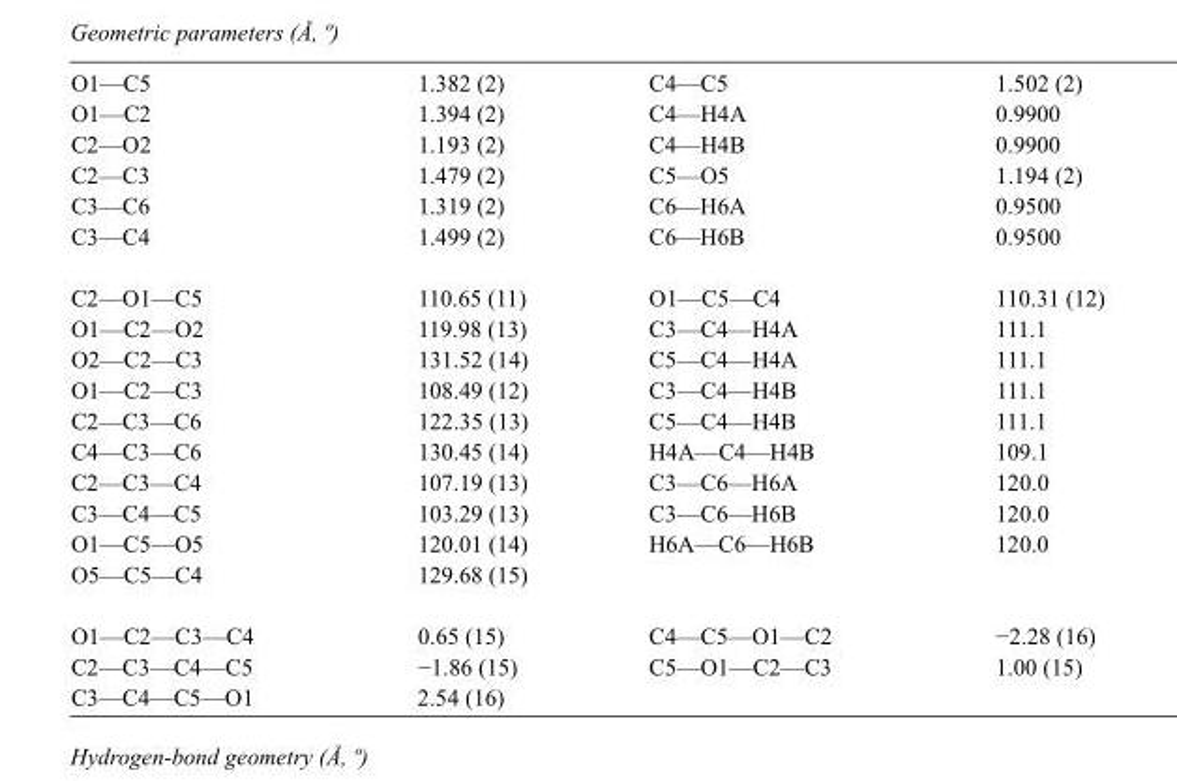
<table><tbody><tr><td>O1—C5</td><td>1.382 (2)</td><td>C4—C5</td><td>1.502 (2)</td></tr><tr><td>O1—C2</td><td>1.394 (2)</td><td>C4—H4A</td><td>0.9900</td></tr><tr><td>C2—O2</td><td>1.193 (2)</td><td>C4—H4B</td><td>0.9900</td></tr><tr><td>C2—C3</td><td>1.479 (2)</td><td>C5—O5</td><td>1.194 (2)</td></tr><tr><td>C3—C6</td><td>1.319 (2)</td><td>C6—H6A</td><td>0.9500</td></tr><tr><td>C3—C4</td><td>1.499 (2)</td><td>C6—H6B</td><td>0.9500</td></tr><tr><td>C2—O1—C5</td><td>110.65 (11)</td><td>O1—C5—C4</td><td>110.31 (12)</td></tr><tr><td>O1—C2—O2</td><td>119.98 (13)</td><td>C3—C4—H4A</td><td>111.1</td></tr><tr><td>O2—C2—C3</td><td>131.52 (14)</td><td>C5—C4—H4A</td><td>111.1</td></tr><tr><td>O1—C2—C3</td><td>108.49 (12)</td><td>C3—C4—H4B</td><td>111.1</td></tr><tr><td>C2—C3—C6</td><td>122.35 (13)</td><td>C5—C4—H4B</td><td>111.1</td></tr><tr><td>C4—C3—C6</td><td>130.45 (14)</td><td>H4A—C4—H4B</td><td>109.1</td></tr><tr><td>C2—C3—C4</td><td>107.19 (13)</td><td>C3—C6—H6A</td><td>120.0</td></tr><tr><td>C3—C4—C5</td><td>103.29 (13)</td><td>C3—C6—H6B</td><td>120.0</td></tr><tr><td>O1—C5—O5</td><td>120.01 (14)</td><td>H6A—C6—H6B</td><td>120.0</td></tr><tr><td>O5—C5—C4</td><td>129.68 (15)</td><td></td><td></td></tr><tr><td>O1—C2—C3—C4</td><td>0.65 (15)</td><td>C4—C5—O1—C2</td><td>−2.28 (16)</td></tr><tr><td>C2—C3—C4—C5</td><td>−1.86 (15)</td><td>C5—O1—C2—C3</td><td>1.00 (15)</td></tr><tr><td>C3—C4—C5—O1</td><td>2.54 (16)</td><td></td><td></td></tr></tbody></table>